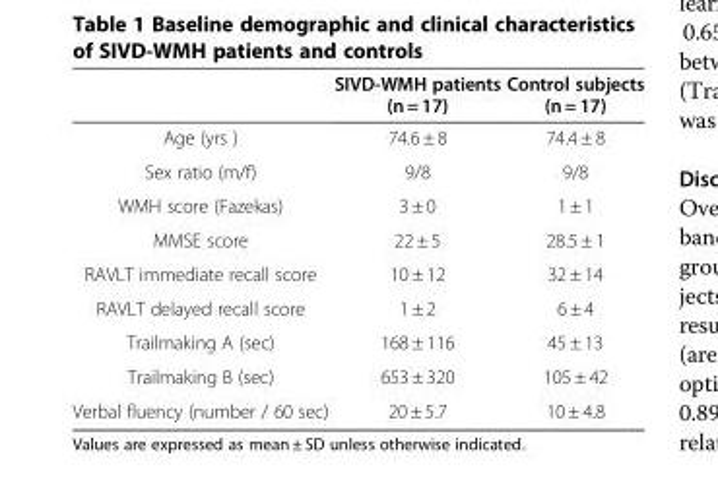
<table><thead><tr><td></td><td>SIVD-WMH patients (n = 17)</td><td>Control subjects (n = 17)</td></tr></thead><tbody><tr><td>Age (yrs )</td><td>74.6 ± 8</td><td>74.4 ± 8</td></tr><tr><td>Sex ratio (m/f)</td><td>9/8</td><td>9/8</td></tr><tr><td>WMH score (Fazekas)</td><td>3 ± 0</td><td>1 ± 1</td></tr><tr><td>MMSE score</td><td>22 ± 5</td><td>28.5 ± 1</td></tr><tr><td>RAVLT immediate recall score</td><td>10 ± 12</td><td>32 ± 14</td></tr><tr><td>RAVLT delayed recall score</td><td>1 ± 2</td><td>6 ± 4</td></tr><tr><td>Trailmaking A (sec)</td><td>168 ± 116</td><td>45 ± 13</td></tr><tr><td>Trailmaking B (sec)</td><td>653 ± 320</td><td>105 ± 42</td></tr><tr><td>Verbal fluency (number / 60 sec)</td><td>20 ± 5.7</td><td>10 ± 4.8</td></tr></tbody></table>